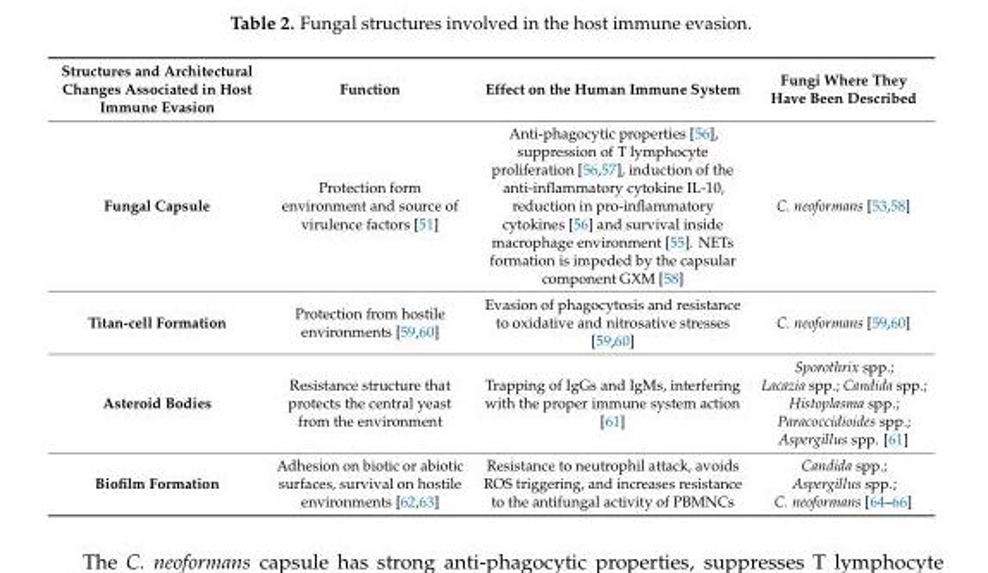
<table><thead><tr><td>Structures and Architectural Changes Associated in Host Immune Evasion</td><td>Function</td><td>Effect on the Human Immune System</td><td>Fungi Where They Have Been Described</td></tr></thead><tbody><tr><td>Fungal Capsule</td><td>Protection form environment and source of virulence factors [51]</td><td>Anti-phagocytic properties [56], suppression of T lymphocyte proliferation [56,57], induction of the anti-inflammatory cytokine IL-10, reduction in pro-inflammatory cytokines [56] and survival inside macrophage environment [55]. NETs formation is impeded by the capsular component GXM [58]</td><td>C. neoformans [53,58]</td></tr><tr><td>Titan-cell Formation</td><td>Protection from hostile environments [59,60]</td><td>Evasion of phagocytosis and resistance to oxidative and nitrosative stresses [59,60]</td><td>C. neoformans [59,60]</td></tr><tr><td>Asteroid Bodies</td><td>Resistance structure that protects the central yeast from the environment</td><td>Trapping of IgGs and IgMs, interfering with the proper immune system action [61]</td><td>Sporothrix spp.; Lacazia spp.; Candida spp.; Histoplasma spp.; Paracoccidioides spp.; Aspergillus spp. [61]</td></tr><tr><td>Biofilm Formation</td><td>Adhesion on biotic or abiotic surfaces, survival on hostile environments [62,63]</td><td>Resistance to neutrophil attack, avoids ROS triggering, and increases resistance to the antifungal activity of PBMNCs</td><td>Candida spp.; Aspergillus spp.; C. neoformans [64–66]</td></tr></tbody></table>